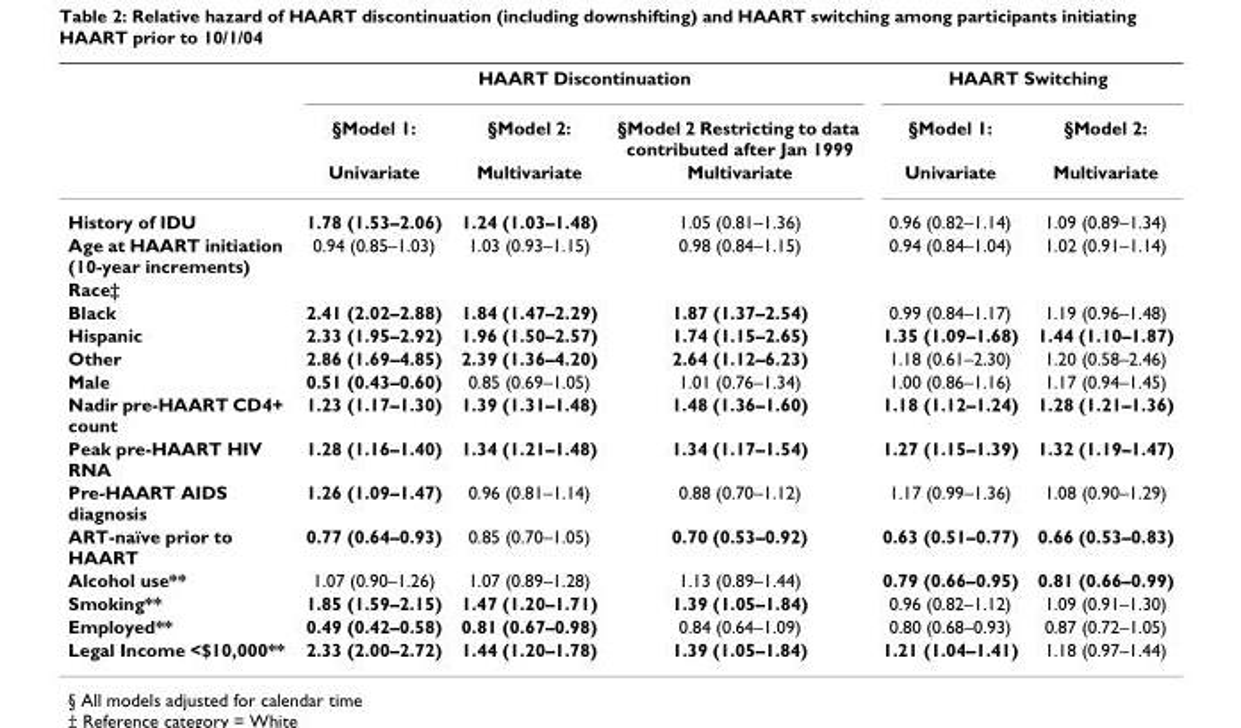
<table><thead><tr><td rowspan="2"></td><td colspan="3">HAART Discontinuation</td><td colspan="2">HAART Switching</td></tr><tr><td>§Model 1:</td><td>§Model 2:</td><td>§Model 2 Restricting to data contributed after Jan 1999</td><td>§Model 1:</td><td>§Model 2:</td></tr></thead><tbody><tr><td></td><td>Univariate</td><td>Multivariate</td><td>Multivariate</td><td>Univariate</td><td>Multivariate</td></tr><tr><td>History of IDU</td><td>1.78 (1.53–2.06)</td><td>1.24 (1.03–1.48)</td><td>1.05 (0.81–1.36)</td><td>0.96 (0.82–1.14)</td><td>1.09 (0.89–1.34)</td></tr><tr><td>Age at HAART initiation (10-year increments)</td><td>0.94 (0.85–1.03)</td><td>1.03 (0.93–1.15)</td><td>0.98 (0.84–1.15)</td><td>0.94 (0.84–1.04)</td><td>1.02 (0.91–1.14)</td></tr><tr><td colspan="6">Race‡</td></tr><tr><td>Black</td><td>2.41 (2.02–2.88)</td><td>1.84 (1.47–2.29)</td><td>1.87 (1.37–2.54)</td><td>0.99 (0.84–1.17)</td><td>1.19 (0.96–1.48)</td></tr><tr><td>Hispanic</td><td>2.33 (1.95–2.92)</td><td>1.96 (1.50–2.57)</td><td>1.74 (1.15–2.65)</td><td>1.35 (1.09–1.68)</td><td>1.44 (1.10–1.87)</td></tr><tr><td>Other</td><td>2.86 (1.69–4.85)</td><td>2.39 (1.36–4.20)</td><td>2.64 (1.12–6.23)</td><td>1.18 (0.61–2.30)</td><td>1.20 (0.58–2.46)</td></tr><tr><td>Male</td><td>0.51 (0.43–0.60)</td><td>0.85 (0.69–1.05)</td><td>1.01 (0.76–1.34)</td><td>1.00 (0.86–1.16)</td><td>1.17 (0.94–1.45)</td></tr><tr><td>Nadir pre-HAART CD4+ count</td><td>1.23 (1.17–1.30)</td><td>1.39 (1.31–1.48)</td><td>1.48 (1.36–1.60)</td><td>1.18 (1.12–1.24)</td><td>1.28 (1.21–1.36)</td></tr><tr><td>Peak pre-HAART HIV RNA</td><td>1.28 (1.16–1.40)</td><td>1.34 (1.21–1.48)</td><td>1.34 (1.17–1.54)</td><td>1.27 (1.15–1.39)</td><td>1.32 (1.19–1.47)</td></tr><tr><td>Pre-HAART AIDS diagnosis</td><td>1.26 (1.09–1.47)</td><td>0.96 (0.81–1.14)</td><td>0.88 (0.70–1.12)</td><td>1.17 (0.99–1.36)</td><td>1.08 (0.90–1.29)</td></tr><tr><td>ART-naïve prior to HAART</td><td>0.77 (0.64–0.93)</td><td>0.85 (0.70–1.05)</td><td>0.70 (0.53–0.92)</td><td>0.63 (0.51–0.77)</td><td>0.66 (0.53–0.83)</td></tr><tr><td>Alcohol use**</td><td>1.07 (0.90–1.26)</td><td>1.07 (0.89–1.28)</td><td>1.13 (0.89–1.44)</td><td>0.79 (0.66–0.95)</td><td>0.81 (0.66–0.99)</td></tr><tr><td>Smoking**</td><td>1.85 (1.59–2.15)</td><td>1.47 (1.20–1.71)</td><td>1.39 (1.05–1.84)</td><td>0.96 (0.82–1.12)</td><td>1.09 (0.91–1.30)</td></tr><tr><td>Employed**</td><td>0.49 (0.42–0.58)</td><td>0.81 (0.67–0.98)</td><td>0.84 (0.64–1.09)</td><td>0.80 (0.68–0.93)</td><td>0.87 (0.72–1.05)</td></tr><tr><td>Legal Income &lt;$10,000**</td><td>2.33 (2.00–2.72)</td><td>1.44 (1.20–1.78)</td><td>1.39 (1.05–1.84)</td><td>1.21 (1.04–1.41)</td><td>1.18 (0.97–1.44)</td></tr></tbody></table>